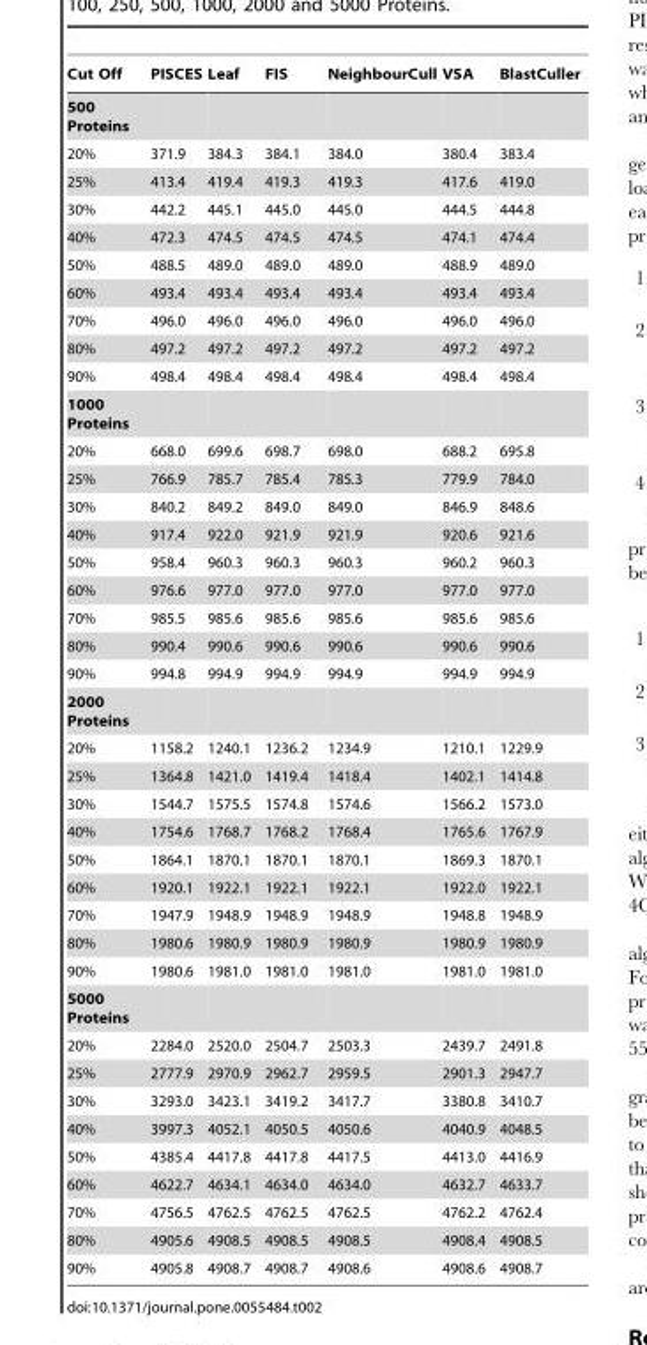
<table><thead><tr><td>Cut Off</td><td>PISCES</td><td>Leaf</td><td>FIS</td><td>NeighbourCull</td><td>VSA</td><td>BlastCuller</td></tr></thead><tbody><tr><td colspan="7">500 Proteins</td></tr><tr><td>20%</td><td>371.9</td><td>384.3</td><td>384.1</td><td>384.0</td><td>380.4</td><td>383.4</td></tr><tr><td>25%</td><td>413.4</td><td>419.4</td><td>419.3</td><td>419.3</td><td>417.6</td><td>419.0</td></tr><tr><td>30%</td><td>442.2</td><td>445.1</td><td>445.0</td><td>445.0</td><td>444.5</td><td>444.8</td></tr><tr><td>40%</td><td>472.3</td><td>474.5</td><td>474.5</td><td>474.5</td><td>474.1</td><td>474.4</td></tr><tr><td>50%</td><td>488.5</td><td>489.0</td><td>489.0</td><td>489.0</td><td>488.9</td><td>489.0</td></tr><tr><td>60%</td><td>493.4</td><td>493.4</td><td>493.4</td><td>493.4</td><td>493.4</td><td>493.4</td></tr><tr><td>70%</td><td>496.0</td><td>496.0</td><td>496.0</td><td>496.0</td><td>496.0</td><td>496.0</td></tr><tr><td>80%</td><td>497.2</td><td>497.2</td><td>497.2</td><td>497.2</td><td>497.2</td><td>497.2</td></tr><tr><td>90%</td><td>498.4</td><td>498.4</td><td>498.4</td><td>498.4</td><td>498.4</td><td>498.4</td></tr><tr><td colspan="7">1000 Proteins</td></tr><tr><td>20%</td><td>668.0</td><td>699.6</td><td>698.7</td><td>698.0</td><td>688.2</td><td>695.8</td></tr><tr><td>25%</td><td>766.9</td><td>785.7</td><td>785.4</td><td>785.3</td><td>779.9</td><td>784.0</td></tr><tr><td>30%</td><td>840.2</td><td>849.2</td><td>849.0</td><td>849.0</td><td>846.9</td><td>848.6</td></tr><tr><td>40%</td><td>917.4</td><td>922.0</td><td>921.9</td><td>921.9</td><td>920.6</td><td>921.6</td></tr><tr><td>50%</td><td>958.4</td><td>960.3</td><td>960.3</td><td>960.3</td><td>960.2</td><td>960.3</td></tr><tr><td>60%</td><td>976.6</td><td>977.0</td><td>977.0</td><td>977.0</td><td>977.0</td><td>977.0</td></tr><tr><td>70%</td><td>985.5</td><td>985.6</td><td>985.6</td><td>985.6</td><td>985.6</td><td>985.6</td></tr><tr><td>80%</td><td>990.4</td><td>990.6</td><td>990.6</td><td>990.6</td><td>990.6</td><td>990.6</td></tr><tr><td>90%</td><td>994.8</td><td>994.9</td><td>994.9</td><td>994.9</td><td>994.9</td><td>994.9</td></tr><tr><td colspan="7">2000 Proteins</td></tr><tr><td>20%</td><td>1158.2</td><td>1240.1</td><td>1236.2</td><td>1234.9</td><td>1210.1</td><td>1229.9</td></tr><tr><td>25%</td><td>1364.8</td><td>1421.0</td><td>1419.4</td><td>1418.4</td><td>1402.1</td><td>1414.8</td></tr><tr><td>30%</td><td>1544.7</td><td>1575.5</td><td>1574.8</td><td>1574.6</td><td>1566.2</td><td>1573.0</td></tr><tr><td>40%</td><td>1754.6</td><td>1768.7</td><td>1768.2</td><td>1768.4</td><td>1765.6</td><td>1767.9</td></tr><tr><td>50%</td><td>1864.1</td><td>1870.1</td><td>1870.1</td><td>1870.1</td><td>1869.3</td><td>1870.1</td></tr><tr><td>60%</td><td>1920.1</td><td>1922.1</td><td>1922.1</td><td>1922.1</td><td>1922.0</td><td>1922.1</td></tr><tr><td>70%</td><td>1947.9</td><td>1948.9</td><td>1948.9</td><td>1948.9</td><td>1948.8</td><td>1948.9</td></tr><tr><td>80%</td><td>1980.6</td><td>1980.9</td><td>1980.9</td><td>1980.9</td><td>1980.9</td><td>1980.9</td></tr><tr><td>90%</td><td>1980.6</td><td>1981.0</td><td>1981.0</td><td>1981.0</td><td>1981.0</td><td>1981.0</td></tr><tr><td colspan="7">5000 Proteins</td></tr><tr><td>20%</td><td>2284.0</td><td>2520.0</td><td>2504.7</td><td>2503.3</td><td>2439.7</td><td>2491.8</td></tr><tr><td>25%</td><td>2777.9</td><td>2970.9</td><td>2962.7</td><td>2959.5</td><td>2901.3</td><td>2947.7</td></tr><tr><td>30%</td><td>3293.0</td><td>3423.1</td><td>3419.2</td><td>3417.7</td><td>3380.8</td><td>3410.7</td></tr><tr><td>40%</td><td>3997.3</td><td>4052.1</td><td>4050.5</td><td>4050.6</td><td>4040.9</td><td>4048.5</td></tr><tr><td>50%</td><td>4385.4</td><td>4417.8</td><td>4417.8</td><td>4417.5</td><td>4413.0</td><td>4416.9</td></tr><tr><td>60%</td><td>4622.7</td><td>4634.1</td><td>4634.0</td><td>4634.0</td><td>4632.7</td><td>4633.7</td></tr><tr><td>70%</td><td>4756.5</td><td>4762.5</td><td>4762.5</td><td>4762.5</td><td>4762.2</td><td>4762.4</td></tr><tr><td>80%</td><td>4905.6</td><td>4908.5</td><td>4908.5</td><td>4908.5</td><td>4908.4</td><td>4908.5</td></tr><tr><td>90%</td><td>4905.8</td><td>4908.7</td><td>4908.7</td><td>4908.6</td><td>4908.6</td><td>4908.7</td></tr></tbody></table>